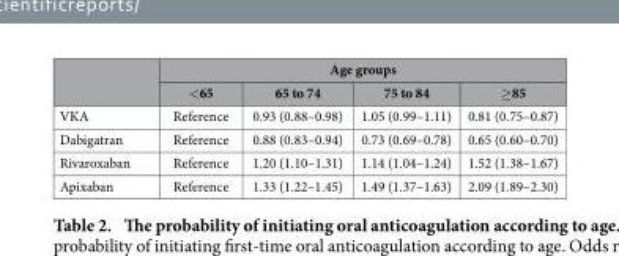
<table><thead><tr><td rowspan="2"></td><td colspan="4">Age groups</td></tr><tr><td>&lt; 65</td><td>65 to 74</td><td>75 to 84</td><td>≥ 85</td></tr></thead><tbody><tr><td>VKA</td><td>Reference</td><td>0.93 (0.88–0.98)</td><td>1.05 (0.99–1.11)</td><td>0.81 (0.75–0.87)</td></tr><tr><td>Dabigatran</td><td>Reference</td><td>0.88 (0.83–0.94)</td><td>0.73 (0.69–0.78)</td><td>0.65 (0.60–0.70)</td></tr><tr><td>Rivaroxaban</td><td>Reference</td><td>1.20 (1.10–1.31)</td><td>1.14 (1.04–1.24)</td><td>1.52 (1.38–1.67)</td></tr><tr><td>Apixaban</td><td>Reference</td><td>1.33 (1.22–1.45)</td><td>1.49 (1.37–1.63)</td><td>2.09 (1.89–2.30)</td></tr></tbody></table>